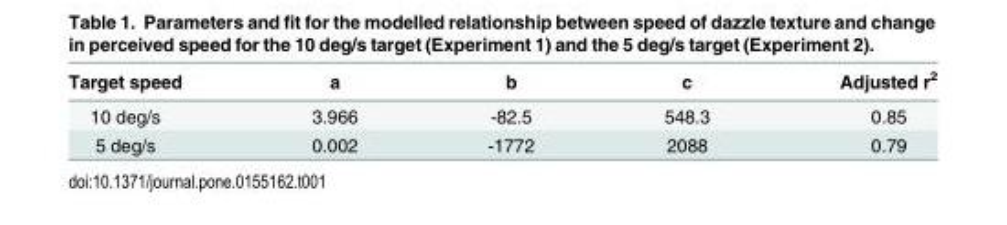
<table><thead><tr><td>Target speed</td><td>a</td><td>b</td><td>c</td><td>Adjusted r<sup>2</sup></td></tr></thead><tbody><tr><td>10 deg/s</td><td>3.966</td><td>-82.5</td><td>548.3</td><td>0.85</td></tr><tr><td>5 deg/s</td><td>0.002</td><td>-1772</td><td>2088</td><td>0.79</td></tr></tbody></table>